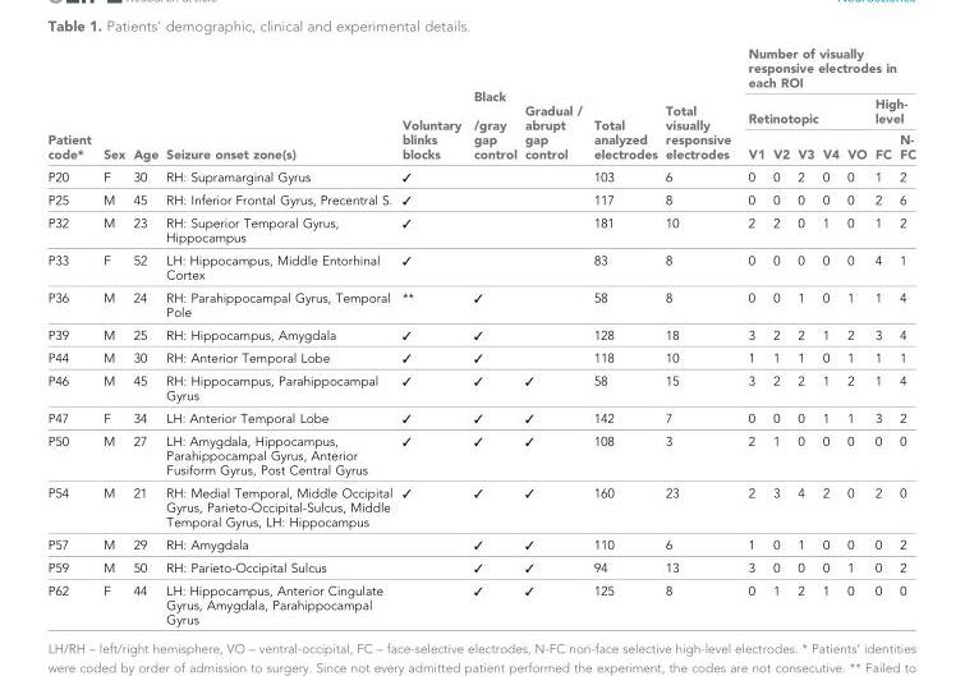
<table><thead><tr><td rowspan="3">Patient code*</td><td rowspan="3">Sex</td><td rowspan="3">Age</td><td rowspan="3">Seizure onset zone(s)</td><td rowspan="3">Voluntary blinks blocks</td><td rowspan="3">Black /gray gap control</td><td rowspan="3">Gradual / abrupt gap control</td><td rowspan="3">Total analyzed electrodes</td><td rowspan="3">Total visually responsive electrodes</td><td colspan="7">Number of visually responsive electrodes in each ROI</td></tr><tr><td colspan="5">Retinotopic</td><td colspan="2">High- level</td></tr><tr><td>V1</td><td>V2</td><td>V3</td><td>V4</td><td>VO</td><td>FC</td><td>N- FC</td></tr></thead><tbody><tr><td>P20</td><td>F</td><td>30</td><td>RH: Supramarginal Gyrus</td><td>✓</td><td></td><td></td><td>103</td><td>6</td><td>0</td><td>0</td><td>2</td><td>0</td><td>0</td><td>1</td><td>2</td></tr><tr><td>P25</td><td>M</td><td>45</td><td>RH: Inferior Frontal Gyrus, Precentral S.</td><td>✓</td><td></td><td></td><td>117</td><td>8</td><td>0</td><td>0</td><td>0</td><td>0</td><td>0</td><td>2</td><td>6</td></tr><tr><td>P32</td><td>M</td><td>23</td><td>RH: Superior Temporal Gyrus, Hippocampus</td><td>✓</td><td></td><td></td><td>181</td><td>10</td><td>2</td><td>2</td><td>0</td><td>1</td><td>0</td><td>1</td><td>2</td></tr><tr><td>P33</td><td>F</td><td>52</td><td>LH: Hippocampus, Middle Entorhinal Cortex</td><td>✓</td><td></td><td></td><td>83</td><td>8</td><td>0</td><td>0</td><td>0</td><td>0</td><td>0</td><td>4</td><td>1</td></tr><tr><td>P36</td><td>M</td><td>24</td><td>RH: Parahippocampal Gyrus, Temporal Pole</td><td>**</td><td>✓</td><td></td><td>58</td><td>8</td><td>0</td><td>0</td><td>1</td><td>0</td><td>1</td><td>1</td><td>4</td></tr><tr><td>P39</td><td>M</td><td>25</td><td>RH: Hippocampus, Amygdala</td><td>✓</td><td>✓</td><td></td><td>128</td><td>18</td><td>3</td><td>2</td><td>2</td><td>1</td><td>2</td><td>3</td><td>4</td></tr><tr><td>P44</td><td>M</td><td>30</td><td>RH: Anterior Temporal Lobe</td><td>✓</td><td>✓</td><td></td><td>118</td><td>10</td><td>1</td><td>1</td><td>1</td><td>0</td><td>1</td><td>1</td><td>1</td></tr><tr><td>P46</td><td>M</td><td>45</td><td>RH: Hippocampus, Parahippocampal Gyrus</td><td>✓</td><td>✓</td><td>✓</td><td>58</td><td>15</td><td>3</td><td>2</td><td>2</td><td>1</td><td>2</td><td>1</td><td>4</td></tr><tr><td>P47</td><td>F</td><td>34</td><td>LH: Anterior Temporal Lobe</td><td>✓</td><td>✓</td><td>✓</td><td>142</td><td>7</td><td>0</td><td>0</td><td>0</td><td>1</td><td>1</td><td>3</td><td>2</td></tr><tr><td>P50</td><td>M</td><td>27</td><td>LH: Amygdala, Hippocampus, Parahippocampal Gyrus, Anterior Fusiform Gyrus, Post Central Gyrus</td><td>✓</td><td>✓</td><td>✓</td><td>108</td><td>3</td><td>2</td><td>1</td><td>0</td><td>0</td><td>0</td><td>0</td><td>0</td></tr><tr><td>P54</td><td>M</td><td>21</td><td>RH: Medial Temporal, Middle Occipital Gyrus, Parieto-Occipital-Sulcus, Middle Temporal Gyrus, LH: Hippocampus</td><td>✓</td><td>✓</td><td>✓</td><td>160</td><td>23</td><td>2</td><td>3</td><td>4</td><td>2</td><td>0</td><td>2</td><td>0</td></tr><tr><td>P57</td><td>M</td><td>29</td><td>RH: Amygdala</td><td></td><td>✓</td><td>✓</td><td>110</td><td>6</td><td>1</td><td>0</td><td>1</td><td>0</td><td>0</td><td>0</td><td>2</td></tr><tr><td>P59</td><td>M</td><td>50</td><td>RH: Parieto-Occipital Sulcus</td><td></td><td>✓</td><td>✓</td><td>94</td><td>13</td><td>3</td><td>0</td><td>0</td><td>0</td><td>1</td><td>0</td><td>2</td></tr><tr><td>P62</td><td>F</td><td>44</td><td>LH: Hippocampus, Anterior Cingulate Gyrus, Amygdala, Parahippocampal Gyrus</td><td></td><td>✓</td><td>✓</td><td>125</td><td>8</td><td>0</td><td>1</td><td>2</td><td>1</td><td>0</td><td>0</td><td>0</td></tr></tbody></table>